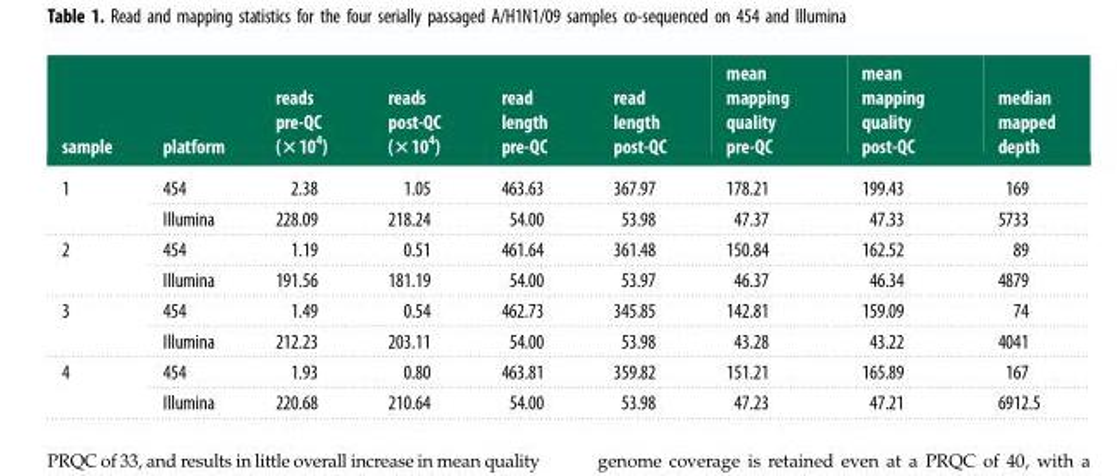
<table><thead><tr><td>sample</td><td>platform</td><td>reads pre-QC (×10<sup>4</sup>)</td><td>reads post-QC (×10<sup>4</sup>)</td><td>read length pre-QC</td><td>read length post-QC</td><td>mean mapping quality pre-QC</td><td>mean mapping quality post-QC</td><td>median mapped depth</td></tr></thead><tbody><tr><td rowspan="2">1</td><td>454</td><td>2.38</td><td>1.05</td><td>463.63</td><td>367.97</td><td>178.21</td><td>199.43</td><td>169</td></tr><tr><td>Illumina</td><td>228.09</td><td>218.24</td><td>54.00</td><td>53.98</td><td>47.37</td><td>47.33</td><td>5733</td></tr><tr><td rowspan="2">2</td><td>454</td><td>1.19</td><td>0.51</td><td>461.64</td><td>361.48</td><td>150.84</td><td>162.52</td><td>89</td></tr><tr><td>Illumina</td><td>191.56</td><td>181.19</td><td>54.00</td><td>53.97</td><td>46.37</td><td>46.34</td><td>4879</td></tr><tr><td rowspan="2">3</td><td>454</td><td>1.49</td><td>0.54</td><td>462.73</td><td>345.85</td><td>142.81</td><td>159.09</td><td>74</td></tr><tr><td>Illumina</td><td>212.23</td><td>203.11</td><td>54.00</td><td>53.98</td><td>43.28</td><td>43.22</td><td>4041</td></tr><tr><td rowspan="2">4</td><td>454</td><td>1.93</td><td>0.80</td><td>463.81</td><td>359.82</td><td>151.21</td><td>165.89</td><td>167</td></tr><tr><td>Illumina</td><td>220.68</td><td>210.64</td><td>54.00</td><td>53.98</td><td>47.23</td><td>47.21</td><td>6912.5</td></tr></tbody></table>